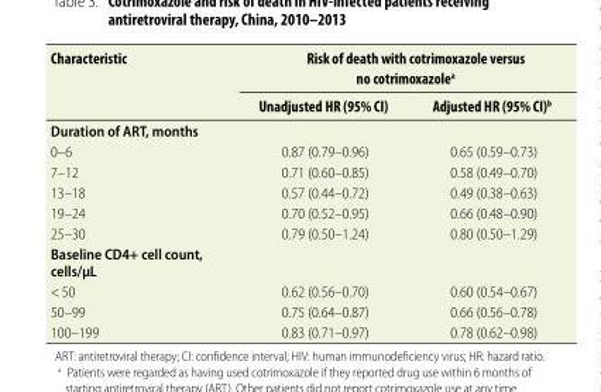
<table><thead><tr><td rowspan="2">Characteristic</td><td colspan="2">Risk of death with cotrimoxazole versus no cotrimoxazole<sup>a</sup></td></tr><tr><td>Unadjusted HR (95% CI)</td><td>Adjusted HR (95% CI)<sup>b</sup></td></tr></thead><tbody><tr><td colspan="3">Duration of ART, months</td></tr><tr><td>0–6</td><td>0.87 (0.79–0.96)</td><td>0.65 (0.59–0.73)</td></tr><tr><td>7–12</td><td>0.71 (0.60–0.85)</td><td>0.58 (0.49–0.70)</td></tr><tr><td>13–18</td><td>0.57 (0.44–0.72)</td><td>0.49 (0.38–0.63)</td></tr><tr><td>19–24</td><td>0.70 (0.52–0.95)</td><td>0.66 (0.48–0.90)</td></tr><tr><td>25–30</td><td>0.79 (0.50–1.24)</td><td>0.80 (0.50–1.29)</td></tr><tr><td colspan="3">Baseline CD4+ cell count, cells/µL</td></tr><tr><td>&lt; 50</td><td>0.62 (0.56–0.70)</td><td>0.60 (0.54–0.67)</td></tr><tr><td>50–99</td><td>0.75 (0.64–0.87)</td><td>0.66 (0.56–0.78)</td></tr><tr><td>100–199</td><td>0.83 (0.71–0.97)</td><td>0.78 (0.62–0.98)</td></tr></tbody></table>